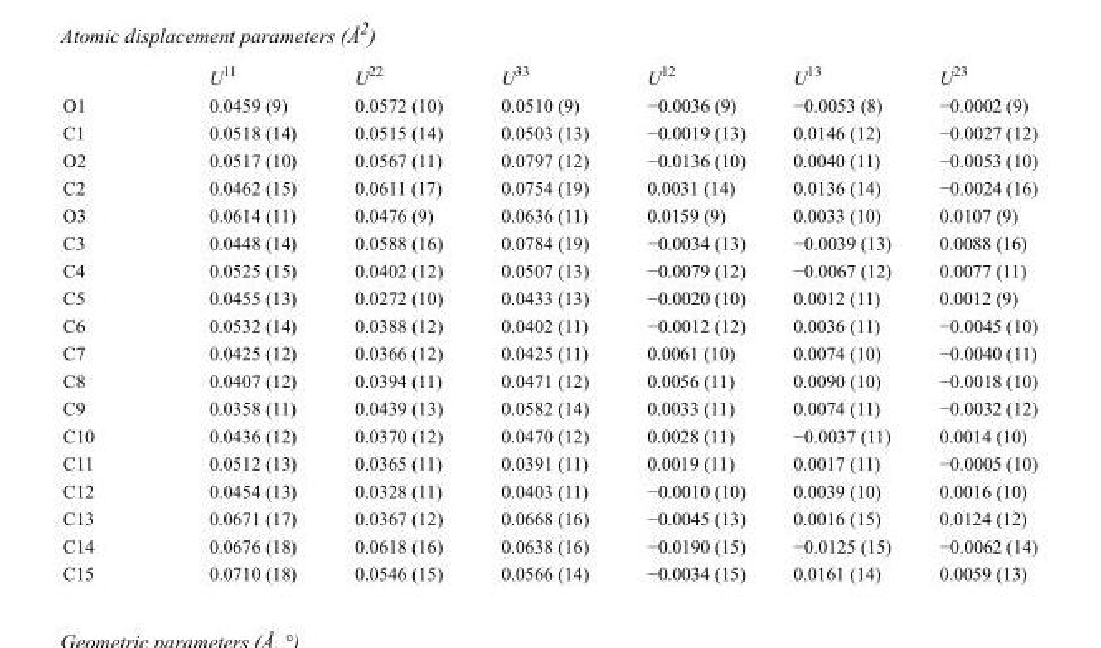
<table><thead><tr><td></td><td>U<sup>11</sup></td><td>U<sup>22</sup></td><td>U<sup>33</sup></td><td>U<sup>12</sup></td><td>U<sup>13</sup></td><td>U<sup>23</sup></td></tr></thead><tbody><tr><td>O1</td><td>0.0459 (9)</td><td>0.0572 (10)</td><td>0.0510 (9)</td><td>−0.0036 (9)</td><td>−0.0053 (8)</td><td>−0.0002 (9)</td></tr><tr><td>C1</td><td>0.0518 (14)</td><td>0.0515 (14)</td><td>0.0503 (13)</td><td>−0.0019 (13)</td><td>0.0146 (12)</td><td>−0.0027 (12)</td></tr><tr><td>O2</td><td>0.0517 (10)</td><td>0.0567 (11)</td><td>0.0797 (12)</td><td>−0.0136 (10)</td><td>0.0040 (11)</td><td>−0.0053 (10)</td></tr><tr><td>C2</td><td>0.0462 (15)</td><td>0.0611 (17)</td><td>0.0754 (19)</td><td>0.0031 (14)</td><td>0.0136 (14)</td><td>−0.0024 (16)</td></tr><tr><td>O3</td><td>0.0614 (11)</td><td>0.0476 (9)</td><td>0.0636 (11)</td><td>0.0159 (9)</td><td>0.0033 (10)</td><td>0.0107 (9)</td></tr><tr><td>C3</td><td>0.0448 (14)</td><td>0.0588 (16)</td><td>0.0784 (19)</td><td>−0.0034 (13)</td><td>−0.0039 (13)</td><td>0.0088 (16)</td></tr><tr><td>C4</td><td>0.0525 (15)</td><td>0.0402 (12)</td><td>0.0507 (13)</td><td>−0.0079 (12)</td><td>−0.0067 (12)</td><td>0.0077 (11)</td></tr><tr><td>C5</td><td>0.0455 (13)</td><td>0.0272 (10)</td><td>0.0433 (13)</td><td>−0.0020 (10)</td><td>0.0012 (11)</td><td>0.0012 (9)</td></tr><tr><td>C6</td><td>0.0532 (14)</td><td>0.0388 (12)</td><td>0.0402 (11)</td><td>−0.0012 (12)</td><td>0.0036 (11)</td><td>−0.0045 (10)</td></tr><tr><td>C7</td><td>0.0425 (12)</td><td>0.0366 (12)</td><td>0.0425 (11)</td><td>0.0061 (10)</td><td>0.0074 (10)</td><td>−0.0040 (11)</td></tr><tr><td>C8</td><td>0.0407 (12)</td><td>0.0394 (11)</td><td>0.0471 (12)</td><td>0.0056 (11)</td><td>0.0090 (10)</td><td>−0.0018 (10)</td></tr><tr><td>C9</td><td>0.0358 (11)</td><td>0.0439 (13)</td><td>0.0582 (14)</td><td>0.0033 (11)</td><td>0.0074 (11)</td><td>−0.0032 (12)</td></tr><tr><td>C10</td><td>0.0436 (12)</td><td>0.0370 (12)</td><td>0.0470 (12)</td><td>0.0028 (11)</td><td>−0.0037 (11)</td><td>0.0014 (10)</td></tr><tr><td>C11</td><td>0.0512 (13)</td><td>0.0365 (11)</td><td>0.0391 (11)</td><td>0.0019 (11)</td><td>0.0017 (11)</td><td>−0.0005 (10)</td></tr><tr><td>C12</td><td>0.0454 (13)</td><td>0.0328 (11)</td><td>0.0403 (11)</td><td>−0.0010 (10)</td><td>0.0039 (10)</td><td>0.0016 (10)</td></tr><tr><td>C13</td><td>0.0671 (17)</td><td>0.0367 (12)</td><td>0.0668 (16)</td><td>−0.0045 (13)</td><td>0.0016 (15)</td><td>0.0124 (12)</td></tr><tr><td>C14</td><td>0.0676 (18)</td><td>0.0618 (16)</td><td>0.0638 (16)</td><td>−0.0190 (15)</td><td>−0.0125 (15)</td><td>−0.0062 (14)</td></tr><tr><td>C15</td><td>0.0710 (18)</td><td>0.0546 (15)</td><td>0.0566 (14)</td><td>−0.0034 (15)</td><td>0.0161 (14)</td><td>0.0059 (13)</td></tr></tbody></table>